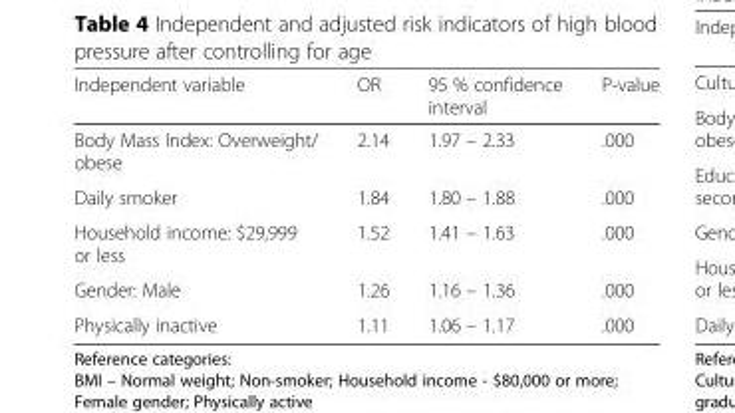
<table><thead><tr><td>Independent variable</td><td>OR</td><td>95 % confidence interval</td><td>P-value</td></tr></thead><tbody><tr><td>Body Mass Index: Overweight/ obese</td><td>2.14</td><td>1.97 – 2.33</td><td>.000</td></tr><tr><td>Daily smoker</td><td>1.84</td><td>1.80 – 1.88</td><td>.000</td></tr><tr><td>Household income: $29,999 or less</td><td>1.52</td><td>1.41 – 1.63</td><td>.000</td></tr><tr><td>Gender: Male</td><td>1.26</td><td>1.16 – 1.36</td><td>.000</td></tr><tr><td>Physically inactive</td><td>1.11</td><td>1.06 – 1.17</td><td>.000</td></tr></tbody></table>